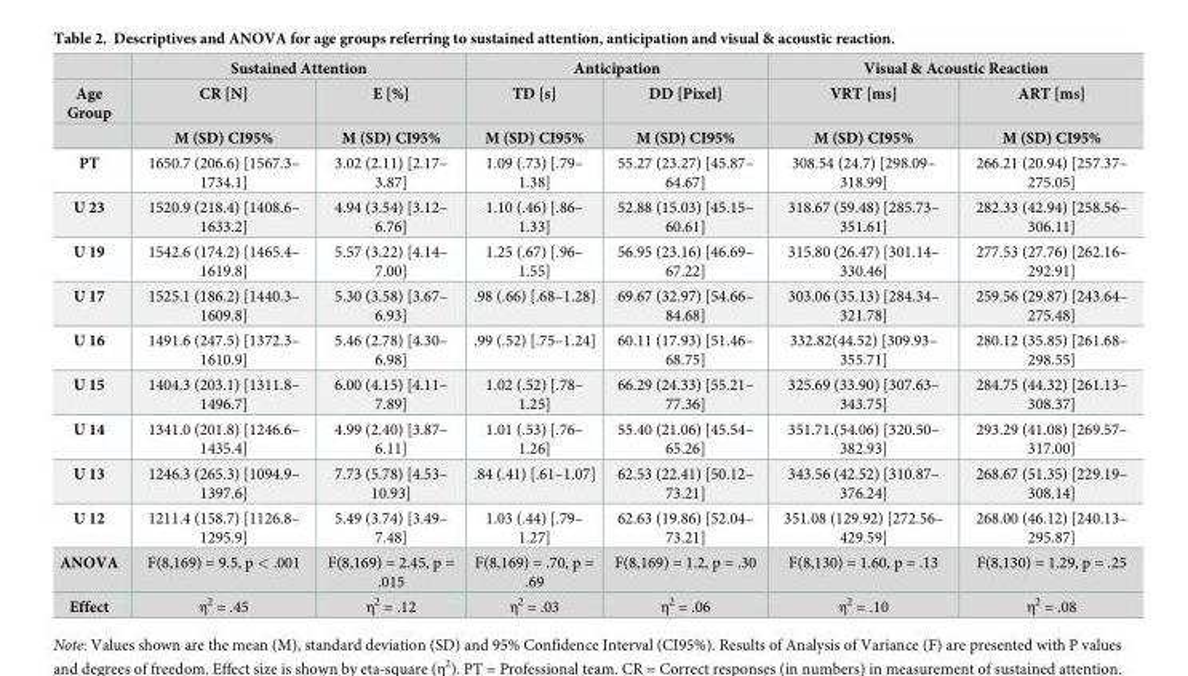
<table><thead><tr><td rowspan="3">Age Group</td><td colspan="2">Sustained Attention</td><td colspan="2">Anticipation</td><td colspan="2">Visual &amp; Acoustic Reaction</td></tr><tr><td rowspan="2">CR [N] M (SD) CI95%</td><td rowspan="2">E [%] M (SD) CI95%</td><td rowspan="2">TD [s] M (SD) CI95%</td><td rowspan="2">DD [Pixel] M (SD) CI95%</td><td rowspan="2">VRT [ms] M (SD) CI95%</td><td rowspan="2">ART [ms] M (SD) CI95%</td></tr><tr></tr></thead><tbody><tr><td>PT</td><td>1650.7 (206.6) [1567.3– 1734.1]</td><td>3.02 (2.11) [2.17– 3.87]</td><td>1.09 (.73) [.79– 1.38]</td><td>55.27 (23.27) [45.87– 64.67]</td><td>308.54 (24.7) [298.09– 318.99]</td><td>266.21 (20.94) [257.37– 275.05]</td></tr><tr><td>U 23</td><td>1520.9 (218.4) [1408.6– 1633.2]</td><td>4.94 (3.54) [3.12– 6.76]</td><td>1.10 (.46) [.86– 1.33]</td><td>52.88 (15.03) [45.15– 60.61]</td><td>318.67 (59.48) [285.73– 351.61]</td><td>282.33 (42.94) [258.56– 306.11]</td></tr><tr><td>U 19</td><td>1542.6 (174.2) [1465.4– 1619.8]</td><td>5.57 (3.22) [4.14– 7.00]</td><td>1.25 (.67) [.96– 1.55]</td><td>56.95 (23.16) [46.69– 67.22]</td><td>315.80 (26.47) [301.14– 330.46]</td><td>277.53 (27.76) [262.16– 292.91]</td></tr><tr><td>U 17</td><td>1525.1 (186.2) [1440.3– 1609.8]</td><td>5.30 (3.58) [3.67– 6.93]</td><td>.98 (.66) [.68–1.28]</td><td>69.67 (32.97) [54.66– 84.68]</td><td>303.06 (35.13) [284.34– 321.78]</td><td>259.56 (29.87) [243.64– 275.48]</td></tr><tr><td>U 16</td><td>1491.6 (247.5) [1372.3– 1610.9]</td><td>5.46 (2.78) [4.30– 6.98]</td><td>.99 (.52) [.75–1.24]</td><td>60.11 (17.93) [51.46– 68.75]</td><td>332.82(44.52) [309.93– 355.71]</td><td>280.12 (35.85) [261.68– 298.55]</td></tr><tr><td>U 15</td><td>1404.3 (203.1) [1311.8– 1496.7]</td><td>6.00 (4.15) [4.11– 7.89]</td><td>1.02 (.52) [.78– 1.25]</td><td>66.29 (24.33) [55.21– 77.36]</td><td>325.69 (33.90) [307.63– 343.75]</td><td>284.75 (44.32) [261.13– 308.37]</td></tr><tr><td>U 14</td><td>1341.0 (201.8) [1246.6– 1435.4]</td><td>4.99 (2.40) [3.87– 6.11]</td><td>1.01 (.53) [.76– 1.26]</td><td>55.40 (21.06) [45.54– 65.26]</td><td>351.71.(54.06) [320.50– 382.93]</td><td>293.29 (41.08) [269.57– 317.00]</td></tr><tr><td>U 13</td><td>1246.3 (265.3) [1094.9– 1397.6]</td><td>7.73 (5.78) [4.53– 10.93]</td><td>.84 (.41) [.61–1.07]</td><td>62.53 (22.41) [50.12– 73.21]</td><td>343.56 (42.52) [310.87– 376.24]</td><td>268.67 (51.35) [229.19– 308.14]</td></tr><tr><td>U 12</td><td>1211.4 (158.7) [1126.8– 1295.9]</td><td>5.49 (3.74) [3.49– 7.48]</td><td>1.03 (.44) [.79– 1.27]</td><td>62.63 (19.86) [52.04– 73.21]</td><td>351.08 (129.92) [272.56– 429.59]</td><td>268.00 (46.12) [240.13– 295.87]</td></tr><tr><td>ANOVA</td><td>F(8,169) = 9.5, p &lt; .001</td><td>F(8,169) = 2.45, p = .015</td><td>F(8,169) = .70, p = .69</td><td>F(8,169) = 1.2, p = .30</td><td>F(8,130) = 1.60, p = .13</td><td>F(8,130) = 1.29, p = .25</td></tr><tr><td>Effect</td><td>η<sup>2</sup> = .45</td><td>η<sup>2</sup> = .12</td><td>η<sup>2</sup> = .03</td><td>η<sup>2</sup> = .06</td><td>η<sup>2</sup> = .10</td><td>η<sup>2</sup> = .08</td></tr></tbody></table>